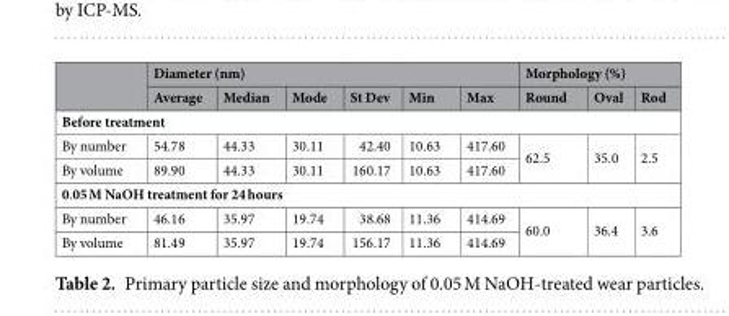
<table><thead><tr><td rowspan="2"></td><td colspan="6">Diameter (nm)</td><td colspan="3">Morphology (%)</td></tr><tr><td>Average</td><td>Median</td><td>Mode</td><td>St Dev</td><td>Min</td><td>Max</td><td>Round</td><td>Oval</td><td>Rod</td></tr></thead><tbody><tr><td colspan="10">Before treatment</td></tr><tr><td>By number</td><td>54.78</td><td>44.33</td><td>30.11</td><td>42.40</td><td>10.63</td><td>417.60</td><td rowspan="2">62.5</td><td rowspan="2">35.0</td><td rowspan="2">2.5</td></tr><tr><td>By volume</td><td>89.90</td><td>44.33</td><td>30.11</td><td>160.17</td><td>10.63</td><td>417.60</td></tr><tr><td colspan="10">0.05 M NaOH treatment for 24 hours</td></tr><tr><td>By number</td><td>46.16</td><td>35.97</td><td>19.74</td><td>38.68</td><td>11.36</td><td>414.69</td><td rowspan="2">60.0</td><td rowspan="2">36.4</td><td rowspan="2">3.6</td></tr><tr><td>By volume</td><td>81.49</td><td>35.97</td><td>19.74</td><td>156.17</td><td>11.36</td><td>414.69</td></tr></tbody></table>